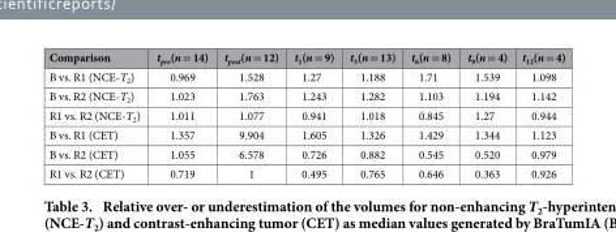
<table><thead><tr><td>Comparison</td><td>t<sub>pre</sub>(n = 14)</td><td>t<sub>post</sub>(n = 12)</td><td>t<sub>1</sub>(n = 9)</td><td>t<sub>3</sub>(n = 13)</td><td>t<sub>6</sub>(n = 8)</td><td>t<sub>9</sub>(n = 4)</td><td>t<sub>12</sub>(n = 4)</td></tr></thead><tbody><tr><td>B vs. R1 (NCE-T<sub>2</sub>)</td><td>0.969</td><td>1.528</td><td>1.27</td><td>1.188</td><td>1.71</td><td>1.539</td><td>1.098</td></tr><tr><td>B vs. R2 (NCE-T<sub>2</sub>)</td><td>1.023</td><td>1.763</td><td>1.243</td><td>1.282</td><td>1.103</td><td>1.194</td><td>1.142</td></tr><tr><td>R1 vs. R2 (NCE-T<sub>2</sub>)</td><td>1.011</td><td>1.077</td><td>0.941</td><td>1.018</td><td>0.845</td><td>1.27</td><td>0.944</td></tr><tr><td>B vs. R1 (CET)</td><td>1.357</td><td>9.904</td><td>1.605</td><td>1.326</td><td>1.429</td><td>1.344</td><td>1.123</td></tr><tr><td>B vs. R2 (CET)</td><td>1.055</td><td>6.578</td><td>0.726</td><td>0.882</td><td>0.545</td><td>0.520</td><td>0.979</td></tr><tr><td>R1 vs. R2 (CET)</td><td>0.719</td><td>1</td><td>0.495</td><td>0.765</td><td>0.646</td><td>0.363</td><td>0.926</td></tr></tbody></table>